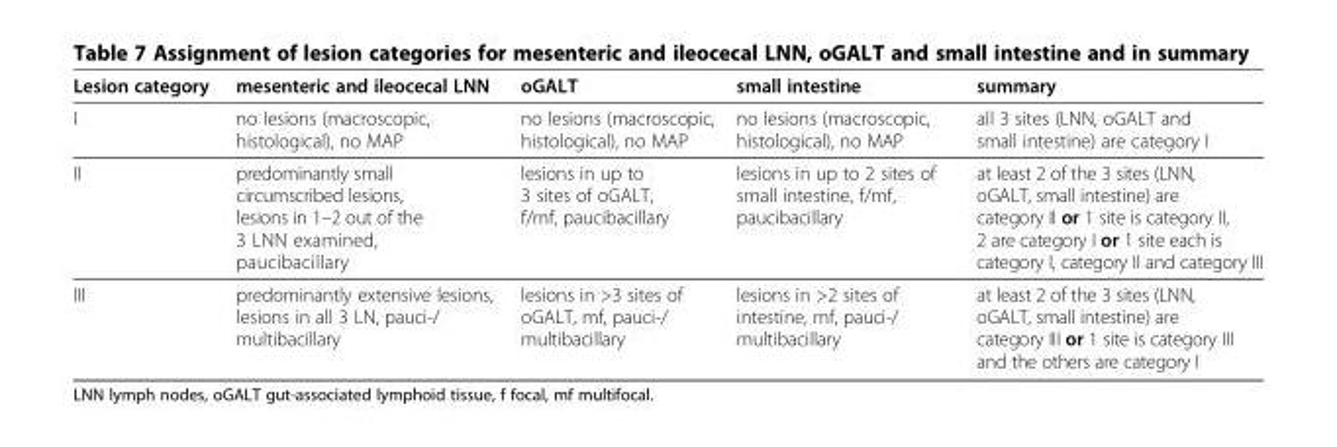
<table><thead><tr><td>Lesion category</td><td>mesenteric and ileocecal LNN</td><td>oGALT</td><td>small intestine</td><td>summary</td></tr></thead><tbody><tr><td>I</td><td>no lesions (macroscopic, histological), no MAP</td><td>no lesions (macroscopic, histological), no MAP</td><td>no lesions (macroscopic, histological), no MAP</td><td>all 3 sites (LNN, oGALT and small intestine) are category I</td></tr><tr><td>II</td><td>predominantly small circumscribed lesions, lesions in 1–2 out of the 3 LNN examined, paucibacillary</td><td>lesions in up to 3 sites of oGALT, f/mf, paucibacillary</td><td>lesions in up to 2 sites of small intestine, f/mf, paucibacillary</td><td>at least 2 of the 3 sites (LNN, oGALT, small intestine) are category II or 1 site is category II, 2 are category I or 1 site each is category I, category II and category III</td></tr><tr><td>III</td><td>predominantly extensive lesions, lesions in all 3 LN, pauci-/ multibacillary</td><td>lesions in &gt;3 sites of oGALT, mf, pauci-/ multibacillary</td><td>lesions in &gt;2 sites of intestine, mf, pauci-/ multibacillary</td><td>at least 2 of the 3 sites (LNN, oGALT, small intestine) are category III or 1 site is category III and the others are category I</td></tr></tbody></table>